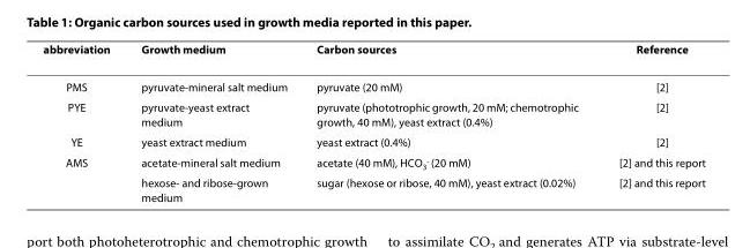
<table><thead><tr><td>abbreviation</td><td>Growth medium</td><td>Carbon sources</td><td>Reference</td></tr></thead><tbody><tr><td>PMS</td><td>pyruvate-mineral salt medium</td><td>pyruvate (20 mM)</td><td>[2]</td></tr><tr><td>PYE</td><td>pyruvate-yeast extract medium</td><td>pyruvate (phototrophic growth, 20 mM; chemotrophic growth, 40 mM), yeast extract (0.4%)</td><td>[2]</td></tr><tr><td>YE</td><td>yeast extract medium</td><td>yeast extract (0.4%)</td><td>[2]</td></tr><tr><td rowspan="2">AMS</td><td>acetate-mineral salt medium</td><td>acetate (40 mM), HCO<sub>3</sub><sup>-</sup> (20 mM)</td><td>[2] and this report</td></tr><tr><td>hexose- and ribose-grown medium</td><td>sugar (hexose or ribose, 40 mM), yeast extract (0.02%)</td><td>[2] and this report</td></tr></tbody></table>